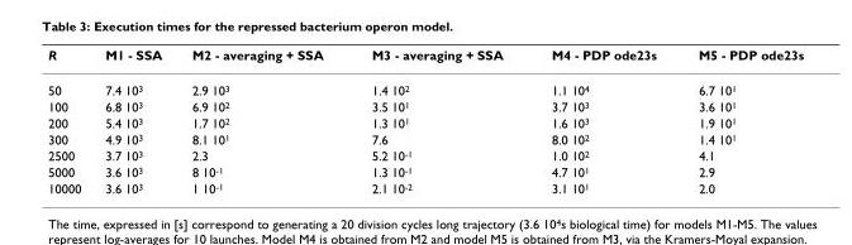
<table><thead><tr><td>R</td><td>M1 - SSA</td><td>M2 - averaging + SSA</td><td>M3 - averaging + SSA</td><td>M4 - PDP ode23s</td><td>M5 - PDP ode23s</td></tr></thead><tbody><tr><td>50</td><td>7.4 10<sup>3</sup></td><td>2.9 10<sup>3</sup></td><td>1.4 10<sup>2</sup></td><td>1.1 10<sup>4</sup></td><td>6.7 10<sup>1</sup></td></tr><tr><td>100</td><td>6.8 10<sup>3</sup></td><td>6.9 10<sup>2</sup></td><td>3.5 10<sup>1</sup></td><td>3.7 10<sup>3</sup></td><td>3.6 10<sup>1</sup></td></tr><tr><td>200</td><td>5.4 10<sup>3</sup></td><td>1.7 10<sup>2</sup></td><td>1.3 10<sup>1</sup></td><td>1.6 10<sup>3</sup></td><td>1.9 10<sup>1</sup></td></tr><tr><td>300</td><td>4.9 10<sup>3</sup></td><td>8.1 10<sup>1</sup></td><td>7.6</td><td>8.0 10<sup>2</sup></td><td>1.4 10<sup>1</sup></td></tr><tr><td>2500</td><td>3.7 10<sup>3</sup></td><td>2.3</td><td>5.2 10<sup>-1</sup></td><td>1.0 10<sup>2</sup></td><td>4.1</td></tr><tr><td>5000</td><td>3.6 10<sup>3</sup></td><td>8 10<sup>-1</sup></td><td>1.3 10<sup>-1</sup></td><td>4.7 10<sup>1</sup></td><td>2.9</td></tr><tr><td>10000</td><td>3.6 10<sup>3</sup></td><td>1 10<sup>-1</sup></td><td>2.1 10<sup>-2</sup></td><td>3.1 10<sup>1</sup></td><td>2.0</td></tr></tbody></table>